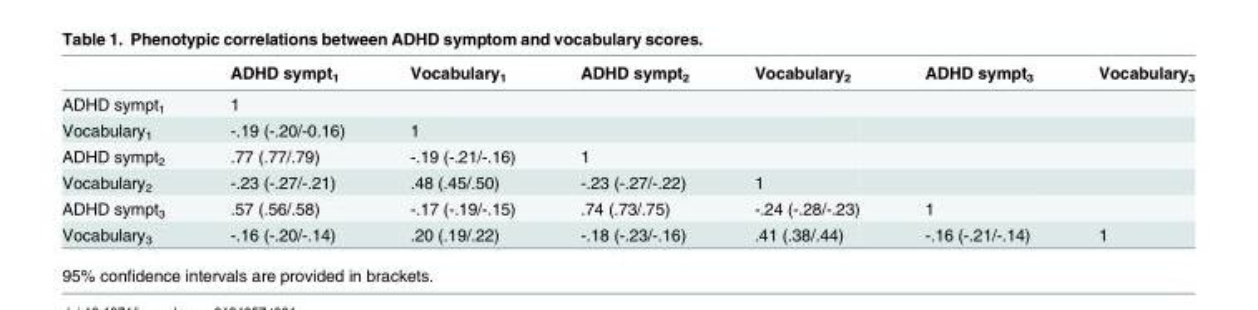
<table><thead><tr><td></td><td>ADHD sympt<sub>1</sub></td><td>Vocabulary<sub>1</sub></td><td>ADHD sympt<sub>2</sub></td><td>Vocabulary<sub>2</sub></td><td>ADHD sympt<sub>3</sub></td><td>Vocabulary<sub>3</sub></td></tr></thead><tbody><tr><td>ADHD sympt<sub>1</sub></td><td>1</td><td></td><td></td><td></td><td></td><td></td></tr><tr><td>Vocabulary<sub>1</sub></td><td>-.19 (-.20/-0.16)</td><td>1</td><td></td><td></td><td></td><td></td></tr><tr><td>ADHD sympt<sub>2</sub></td><td>.77 (.77/.79)</td><td>-.19 (-.21/-.16)</td><td>1</td><td></td><td></td><td></td></tr><tr><td>Vocabulary<sub>2</sub></td><td>-.23 (-.27/-.21)</td><td>.48 (.45/.50)</td><td>-.23 (-.27/-.22)</td><td>1</td><td></td><td></td></tr><tr><td>ADHD sympt<sub>3</sub></td><td>.57 (.56/.58)</td><td>-.17 (-.19/-.15)</td><td>.74 (.73/.75)</td><td>-.24 (-.28/-.23)</td><td>1</td><td></td></tr><tr><td>Vocabulary<sub>3</sub></td><td>-.16 (-.20/-.14)</td><td>.20 (.19/.22)</td><td>-.18 (-.23/-.16)</td><td>.41 (.38/.44)</td><td>-.16 (-.21/-.14)</td><td>1</td></tr></tbody></table>